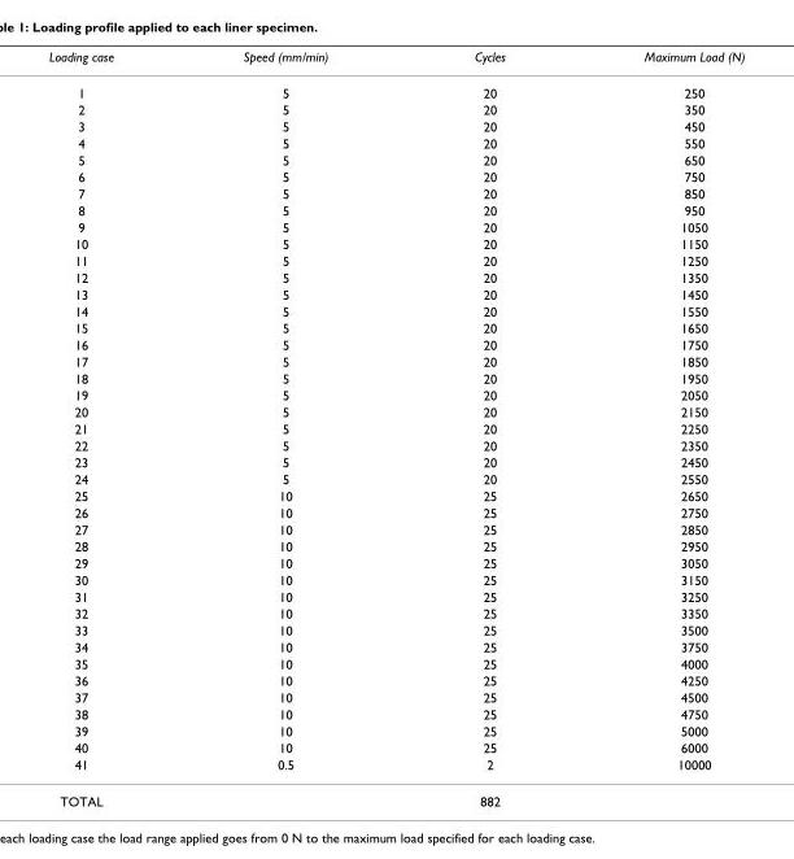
<table><thead><tr><td>Loading case</td><td>Speed (mm/min)</td><td>Cycles</td><td>Maximum Load (N)</td></tr></thead><tbody><tr><td>1</td><td>5</td><td>20</td><td>250</td></tr><tr><td>2</td><td>5</td><td>20</td><td>350</td></tr><tr><td>3</td><td>5</td><td>20</td><td>450</td></tr><tr><td>4</td><td>5</td><td>20</td><td>550</td></tr><tr><td>5</td><td>5</td><td>20</td><td>650</td></tr><tr><td>6</td><td>5</td><td>20</td><td>750</td></tr><tr><td>7</td><td>5</td><td>20</td><td>850</td></tr><tr><td>8</td><td>5</td><td>20</td><td>950</td></tr><tr><td>9</td><td>5</td><td>20</td><td>1050</td></tr><tr><td>10</td><td>5</td><td>20</td><td>1150</td></tr><tr><td>11</td><td>5</td><td>20</td><td>1250</td></tr><tr><td>12</td><td>5</td><td>20</td><td>1350</td></tr><tr><td>13</td><td>5</td><td>20</td><td>1450</td></tr><tr><td>14</td><td>5</td><td>20</td><td>1550</td></tr><tr><td>15</td><td>5</td><td>20</td><td>1650</td></tr><tr><td>16</td><td>5</td><td>20</td><td>1750</td></tr><tr><td>17</td><td>5</td><td>20</td><td>1850</td></tr><tr><td>18</td><td>5</td><td>20</td><td>1950</td></tr><tr><td>19</td><td>5</td><td>20</td><td>2050</td></tr><tr><td>20</td><td>5</td><td>20</td><td>2150</td></tr><tr><td>21</td><td>5</td><td>20</td><td>2250</td></tr><tr><td>22</td><td>5</td><td>20</td><td>2350</td></tr><tr><td>23</td><td>5</td><td>20</td><td>2450</td></tr><tr><td>24</td><td>5</td><td>20</td><td>2550</td></tr><tr><td>25</td><td>10</td><td>25</td><td>2650</td></tr><tr><td>26</td><td>10</td><td>25</td><td>2750</td></tr><tr><td>27</td><td>10</td><td>25</td><td>2850</td></tr><tr><td>28</td><td>10</td><td>25</td><td>2950</td></tr><tr><td>29</td><td>10</td><td>25</td><td>3050</td></tr><tr><td>30</td><td>10</td><td>25</td><td>3150</td></tr><tr><td>31</td><td>10</td><td>25</td><td>3250</td></tr><tr><td>32</td><td>10</td><td>25</td><td>3350</td></tr><tr><td>33</td><td>10</td><td>25</td><td>3500</td></tr><tr><td>34</td><td>10</td><td>25</td><td>3750</td></tr><tr><td>35</td><td>10</td><td>25</td><td>4000</td></tr><tr><td>36</td><td>10</td><td>25</td><td>4250</td></tr><tr><td>37</td><td>10</td><td>25</td><td>4500</td></tr><tr><td>38</td><td>10</td><td>25</td><td>4750</td></tr><tr><td>39</td><td>10</td><td>25</td><td>5000</td></tr><tr><td>40</td><td>10</td><td>25</td><td>6000</td></tr><tr><td>41</td><td>0.5</td><td>2</td><td>10000</td></tr><tr><td>TOTAL</td><td></td><td>882</td><td></td></tr></tbody></table>